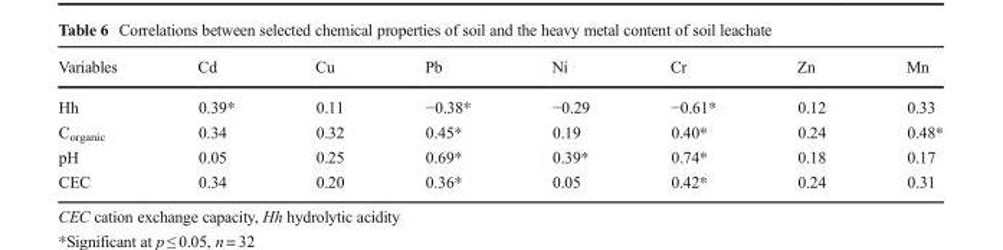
<table><thead><tr><td>Variables</td><td>Cd</td><td>Cu</td><td>Pb</td><td>Ni</td><td>Cr</td><td>Zn</td><td>Mn</td></tr></thead><tbody><tr><td>Hh</td><td>0.39*</td><td>0.11</td><td>−0.38*</td><td>−0.29</td><td>−0.61*</td><td>0.12</td><td>0.33</td></tr><tr><td>C<sub>organic</sub></td><td>0.34</td><td>0.32</td><td>0.45*</td><td>0.19</td><td>0.40*</td><td>0.24</td><td>0.48*</td></tr><tr><td>pH</td><td>0.05</td><td>0.25</td><td>0.69*</td><td>0.39*</td><td>0.74*</td><td>0.18</td><td>0.17</td></tr><tr><td>CEC</td><td>0.34</td><td>0.20</td><td>0.36*</td><td>0.05</td><td>0.42*</td><td>0.24</td><td>0.31</td></tr></tbody></table>